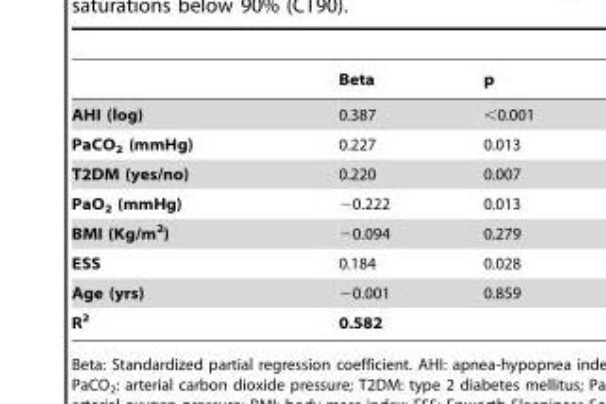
<table><thead><tr><td></td><td>Beta</td><td>p</td></tr></thead><tbody><tr><td>AHI (log)</td><td>0.387</td><td>&lt;0.001</td></tr><tr><td>PaCO<sub>2</sub> (mmHg)</td><td>0.227</td><td>0.013</td></tr><tr><td>T2DM (yes/no)</td><td>0.220</td><td>0.007</td></tr><tr><td>PaO<sub>2</sub> (mmHg)</td><td>−0.222</td><td>0.013</td></tr><tr><td>BMI (Kg/m<sup>2</sup>)</td><td>−0.094</td><td>0.279</td></tr><tr><td>ESS</td><td>0.184</td><td>0.028</td></tr><tr><td>Age (yrs)</td><td>−0.001</td><td>0.859</td></tr><tr><td>R<sup>2</sup></td><td>0.582</td><td></td></tr></tbody></table>